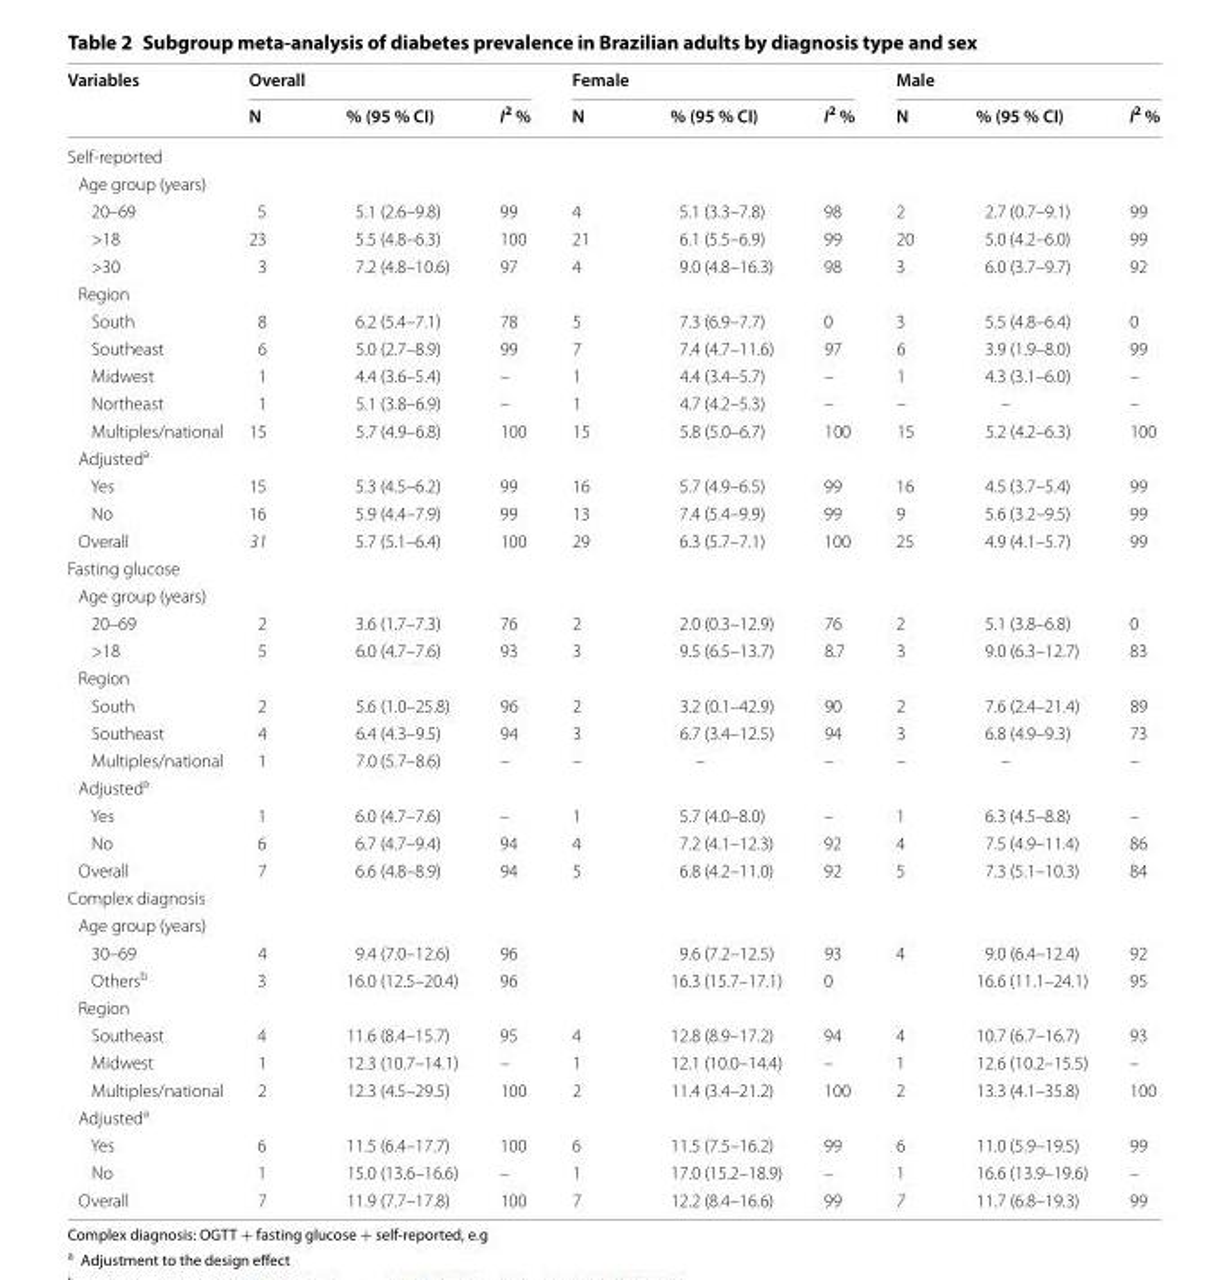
<table><thead><tr><td rowspan="2">Variables</td><td colspan="3">Overall</td><td colspan="3">Female</td><td colspan="3">Male</td></tr><tr><td>N</td><td>% (95 % CI)</td><td>I<sup>2</sup> %</td><td>N</td><td>% (95 % CI)</td><td>I<sup>2</sup> %</td><td>N</td><td>% (95 % CI)</td><td>I<sup>2</sup> %</td></tr></thead><tbody><tr><td colspan="10">Self-reported</td></tr><tr><td colspan="10">Age group (years)</td></tr><tr><td>20–69</td><td>5</td><td>5.1 (2.6–9.8)</td><td>99</td><td>4</td><td>5.1 (3.3–7.8)</td><td>98</td><td>2</td><td>2.7 (0.7–9.1)</td><td>99</td></tr><tr><td>&gt;18</td><td>23</td><td>5.5 (4.8–6.3)</td><td>100</td><td>21</td><td>6.1 (5.5–6.9)</td><td>99</td><td>20</td><td>5.0 (4.2–6.0)</td><td>99</td></tr><tr><td>&gt;30</td><td>3</td><td>7.2 (4.8–10.6)</td><td>97</td><td>4</td><td>9.0 (4.8–16.3)</td><td>98</td><td>3</td><td>6.0 (3.7–9.7)</td><td>92</td></tr><tr><td colspan="10">Region</td></tr><tr><td>South</td><td>8</td><td>6.2 (5.4–7.1)</td><td>78</td><td>5</td><td>7.3 (6.9–7.7)</td><td>0</td><td>3</td><td>5.5 (4.8–6.4)</td><td>0</td></tr><tr><td>Southeast</td><td>6</td><td>5.0 (2.7–8.9)</td><td>99</td><td>7</td><td>7.4 (4.7–11.6)</td><td>97</td><td>6</td><td>3.9 (1.9–8.0)</td><td>99</td></tr><tr><td>Midwest</td><td>1</td><td>4.4 (3.6–5.4)</td><td>–</td><td>1</td><td>4.4 (3.4–5.7)</td><td>–</td><td>1</td><td>4.3 (3.1–6.0)</td><td>–</td></tr><tr><td>Northeast</td><td>1</td><td>5.1 (3.8–6.9)</td><td>–</td><td>1</td><td>4.7 (4.2–5.3)</td><td>–</td><td>–</td><td>–</td><td>–</td></tr><tr><td>Multiples/national</td><td>15</td><td>5.7 (4.9–6.8)</td><td>100</td><td>15</td><td>5.8 (5.0–6.7)</td><td>100</td><td>15</td><td>5.2 (4.2–6.3)</td><td>100</td></tr><tr><td colspan="10">Adjusted<sup>a</sup></td></tr><tr><td>Yes</td><td>15</td><td>5.3 (4.5–6.2)</td><td>99</td><td>16</td><td>5.7 (4.9–6.5)</td><td>99</td><td>16</td><td>4.5 (3.7–5.4)</td><td>99</td></tr><tr><td>No</td><td>16</td><td>5.9 (4.4–7.9)</td><td>99</td><td>13</td><td>7.4 (5.4–9.9)</td><td>99</td><td>9</td><td>5.6 (3.2–9.5)</td><td>99</td></tr><tr><td>Overall</td><td>31</td><td>5.7 (5.1–6.4)</td><td>100</td><td>29</td><td>6.3 (5.7–7.1)</td><td>100</td><td>25</td><td>4.9 (4.1–5.7)</td><td>99</td></tr><tr><td colspan="10">Fasting glucose</td></tr><tr><td colspan="10">Age group (years)</td></tr><tr><td>20–69</td><td>2</td><td>3.6 (1.7–7.3)</td><td>76</td><td>2</td><td>2.0 (0.3–12.9)</td><td>76</td><td>2</td><td>5.1 (3.8–6.8)</td><td>0</td></tr><tr><td>&gt;18</td><td>5</td><td>6.0 (4.7–7.6)</td><td>93</td><td>3</td><td>9.5 (6.5–13.7)</td><td>8.7</td><td>3</td><td>9.0 (6.3–12.7)</td><td>83</td></tr><tr><td colspan="10">Region</td></tr><tr><td>South</td><td>2</td><td>5.6 (1.0–25.8)</td><td>96</td><td>2</td><td>3.2 (0.1–42.9)</td><td>90</td><td>2</td><td>7.6 (2.4–21.4)</td><td>89</td></tr><tr><td>Southeast</td><td>4</td><td>6.4 (4.3–9.5)</td><td>94</td><td>3</td><td>6.7 (3.4–12.5)</td><td>94</td><td>3</td><td>6.8 (4.9–9.3)</td><td>73</td></tr><tr><td>Multiples/national</td><td>1</td><td>7.0 (5.7–8.6)</td><td>–</td><td>–</td><td>–</td><td>–</td><td>–</td><td>–</td><td>–</td></tr><tr><td colspan="10">Adjusted<sup>a</sup></td></tr><tr><td>Yes</td><td>1</td><td>6.0 (4.7–7.6)</td><td>–</td><td>1</td><td>5.7 (4.0–8.0)</td><td>–</td><td>1</td><td>6.3 (4.5–8.8)</td><td>–</td></tr><tr><td>No</td><td>6</td><td>6.7 (4.7–9.4)</td><td>94</td><td>4</td><td>7.2 (4.1–12.3)</td><td>92</td><td>4</td><td>7.5 (4.9–11.4)</td><td>86</td></tr><tr><td>Overall</td><td>7</td><td>6.6 (4.8–8.9)</td><td>94</td><td>5</td><td>6.8 (4.2–11.0)</td><td>92</td><td>5</td><td>7.3 (5.1–10.3)</td><td>84</td></tr><tr><td colspan="10">Complex diagnosis</td></tr><tr><td colspan="10">Age group (years)</td></tr><tr><td>30–69</td><td>4</td><td>9.4 (7.0–12.6)</td><td>96</td><td></td><td>9.6 (7.2–12.5)</td><td>93</td><td>4</td><td>9.0 (6.4–12.4)</td><td>92</td></tr><tr><td>Others<sup>b</sup></td><td>3</td><td>16.0 (12.5–20.4)</td><td>96</td><td></td><td>16.3 (15.7–17.1)</td><td>0</td><td></td><td>16.6 (11.1–24.1)</td><td>95</td></tr><tr><td colspan="10">Region</td></tr><tr><td>Southeast</td><td>4</td><td>11.6 (8.4–15.7)</td><td>95</td><td>4</td><td>12.8 (8.9–17.2)</td><td>94</td><td>4</td><td>10.7 (6.7–16.7)</td><td>93</td></tr><tr><td>Midwest</td><td>1</td><td>12.3 (10.7–14.1)</td><td>–</td><td>1</td><td>12.1 (10.0–14.4)</td><td>–</td><td>1</td><td>12.6 (10.2–15.5)</td><td>–</td></tr><tr><td>Multiples/national</td><td>2</td><td>12.3 (4.5–29.5)</td><td>100</td><td>2</td><td>11.4 (3.4–21.2)</td><td>100</td><td>2</td><td>13.3 (4.1–35.8)</td><td>100</td></tr><tr><td colspan="10">Adjusted<sup>a</sup></td></tr><tr><td>Yes</td><td>6</td><td>11.5 (6.4–17.7)</td><td>100</td><td>6</td><td>11.5 (7.5–16.2)</td><td>99</td><td>6</td><td>11.0 (5.9–19.5)</td><td>99</td></tr><tr><td>No</td><td>1</td><td>15.0 (13.6–16.6)</td><td>–</td><td>1</td><td>17.0 (15.2–18.9)</td><td>–</td><td>1</td><td>16.6 (13.9–19.6)</td><td>–</td></tr><tr><td>Overall</td><td>7</td><td>11.9 (7.7–17.8)</td><td>100</td><td>7</td><td>12.2 (8.4–16.6)</td><td>99</td><td>7</td><td>11.7 (6.8–19.3)</td><td>99</td></tr></tbody></table>